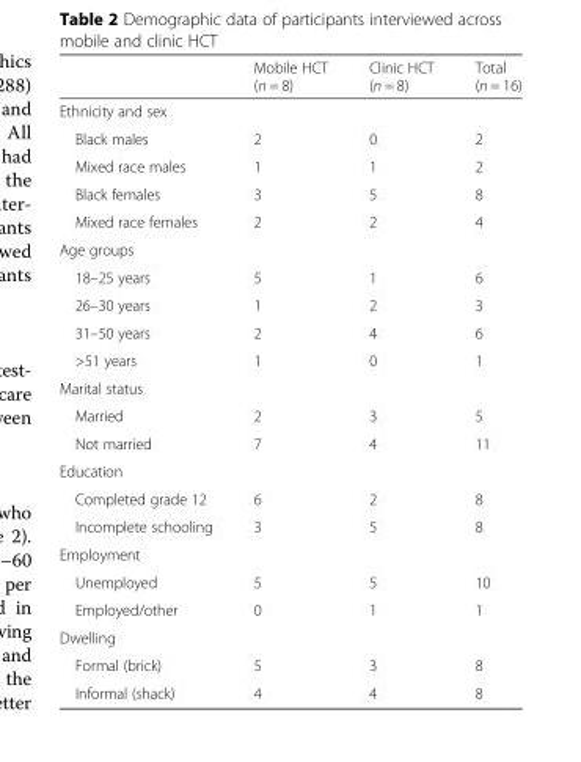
<table><thead><tr><td></td><td>Mobile HCT (n = 8)</td><td>Clinic HCT (n = 8)</td><td>Total (n = 16)</td></tr></thead><tbody><tr><td colspan="4">Ethnicity and sex</td></tr><tr><td>Black males</td><td>2</td><td>0</td><td>2</td></tr><tr><td>Mixed race males</td><td>1</td><td>1</td><td>2</td></tr><tr><td>Black females</td><td>3</td><td>5</td><td>8</td></tr><tr><td>Mixed race females</td><td>2</td><td>2</td><td>4</td></tr><tr><td colspan="4">Age groups</td></tr><tr><td>18–25 years</td><td>5</td><td>1</td><td>6</td></tr><tr><td>26–30 years</td><td>1</td><td>2</td><td>3</td></tr><tr><td>31–50 years</td><td>2</td><td>4</td><td>6</td></tr><tr><td>&gt;51 years</td><td>1</td><td>0</td><td>1</td></tr><tr><td colspan="4">Marital status</td></tr><tr><td>Married</td><td>2</td><td>3</td><td>5</td></tr><tr><td>Not married</td><td>7</td><td>4</td><td>11</td></tr><tr><td colspan="4">Education</td></tr><tr><td>Completed grade 12</td><td>6</td><td>2</td><td>8</td></tr><tr><td>Incomplete schooling</td><td>3</td><td>5</td><td>8</td></tr><tr><td colspan="4">Employment</td></tr><tr><td>Unemployed</td><td>5</td><td>5</td><td>10</td></tr><tr><td>Employed/other</td><td>0</td><td>1</td><td>1</td></tr><tr><td colspan="4">Dwelling</td></tr><tr><td>Formal (brick)</td><td>5</td><td>3</td><td>8</td></tr><tr><td>Informal (shack)</td><td>4</td><td>4</td><td>8</td></tr></tbody></table>